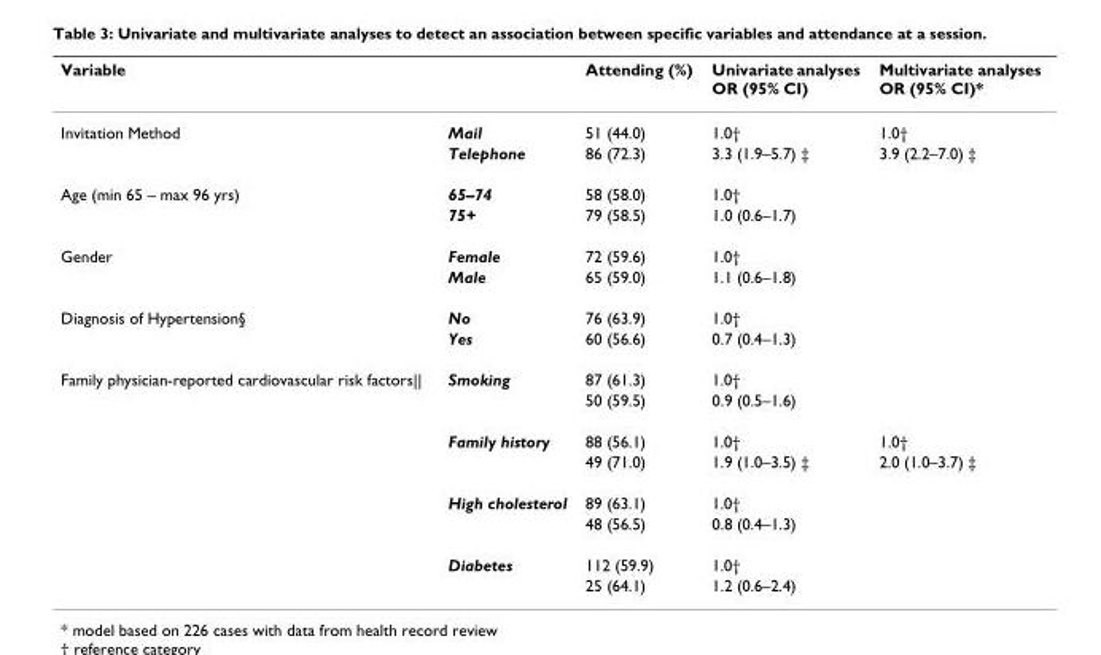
<table><thead><tr><td>Variable</td><td></td><td>Attending (%)</td><td>Univariate analyses OR (95% CI)</td><td>Multivariate analyses OR (95% CI)*</td></tr></thead><tbody><tr><td rowspan="2">Invitation Method</td><td>Mail</td><td>51 (44.0)</td><td>1.0†</td><td>1.0†</td></tr><tr><td>Telephone</td><td>86 (72.3)</td><td>3.3 (1.9–5.7) ‡</td><td>3.9 (2.2–7.0) ‡</td></tr><tr><td rowspan="2">Age (min 65 – max 96 yrs)</td><td>65–74</td><td>58 (58.0)</td><td>1.0†</td><td></td></tr><tr><td>75+</td><td>79 (58.5)</td><td>1.0 (0.6–1.7)</td><td></td></tr><tr><td rowspan="2">Gender</td><td>Female</td><td>72 (59.6)</td><td>1.0†</td><td></td></tr><tr><td>Male</td><td>65 (59.0)</td><td>1.1 (0.6–1.8)</td><td></td></tr><tr><td rowspan="2">Diagnosis of Hypertension§</td><td>No</td><td>76 (63.9)</td><td>1.0†</td><td></td></tr><tr><td>Yes</td><td>60 (56.6)</td><td>0.7 (0.4–1.3)</td><td></td></tr><tr><td rowspan="8">Family physician-reported cardiovascular risk factors||</td><td>Smoking</td><td>87 (61.3)</td><td>1.0†</td><td></td></tr><tr><td></td><td>50 (59.5)</td><td>0.9 (0.5–1.6)</td><td></td></tr><tr><td>Family history</td><td>88 (56.1)</td><td>1.0†</td><td>1.0†</td></tr><tr><td></td><td>49 (71.0)</td><td>1.9 (1.0–3.5) ‡</td><td>2.0 (1.0–3.7) ‡</td></tr><tr><td>High cholesterol</td><td>89 (63.1)</td><td>1.0†</td><td></td></tr><tr><td></td><td>48 (56.5)</td><td>0.8 (0.4–1.3)</td><td></td></tr><tr><td>Diabetes</td><td>112 (59.9)</td><td>1.0†</td><td></td></tr><tr><td></td><td>25 (64.1)</td><td>1.2 (0.6–2.4)</td><td></td></tr></tbody></table>